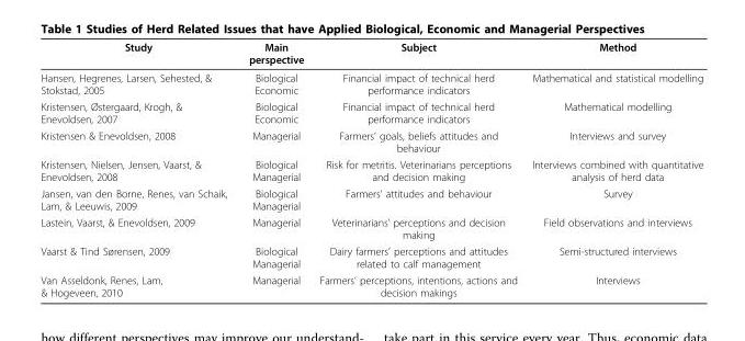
<table><thead><tr><td>Study</td><td>Main perspective</td><td>Subject</td><td>Method</td></tr></thead><tbody><tr><td>Hansen, Hegrenes, Larsen, Sehested, &amp; Stokstad, 2005</td><td>Biological Economic</td><td>Financial impact of technical herd performance indicators</td><td>Mathematical and statistical modelling</td></tr><tr><td>Kristensen, Østergaard, Krogh, &amp; Enevoldsen, 2007</td><td>Biological Economic</td><td>Financial impact of technical herd performance indicators</td><td>Mathematical modelling</td></tr><tr><td>Kristensen &amp; Enevoldsen, 2008</td><td>Managerial</td><td>Farmers’ goals, beliefs attitudes and behaviour</td><td>Interviews and survey</td></tr><tr><td>Kristensen, Nielsen, Jensen, Vaarst, &amp; Enevoldsen, 2008</td><td>Biological Managerial</td><td>Risk for metritis. Veterinarians perceptions and decision making</td><td>Interviews combined with quantitative analysis of herd data</td></tr><tr><td>Jansen, van den Borne, Renes, van Schaik, Lam, &amp; Leeuwis, 2009</td><td>Biological Managerial</td><td>Farmers’ attitudes and behaviour</td><td>Survey</td></tr><tr><td>Lastein, Vaarst, &amp; Enevoldsen, 2009</td><td>Managerial</td><td>Veterinarians’ perceptions and decision making</td><td>Field observations and interviews</td></tr><tr><td>Vaarst &amp; Tind Sørensen, 2009</td><td>Biological Managerial</td><td>Dairy farmers’ perceptions and attitudes related to calf management</td><td>Semi-structured interviews</td></tr><tr><td>Van Asseldonk, Renes, Lam, &amp; Hogeveen, 2010</td><td>Managerial</td><td>Farmers’ perceptions, intentions, actions and decision makings</td><td>Interviews</td></tr></tbody></table>